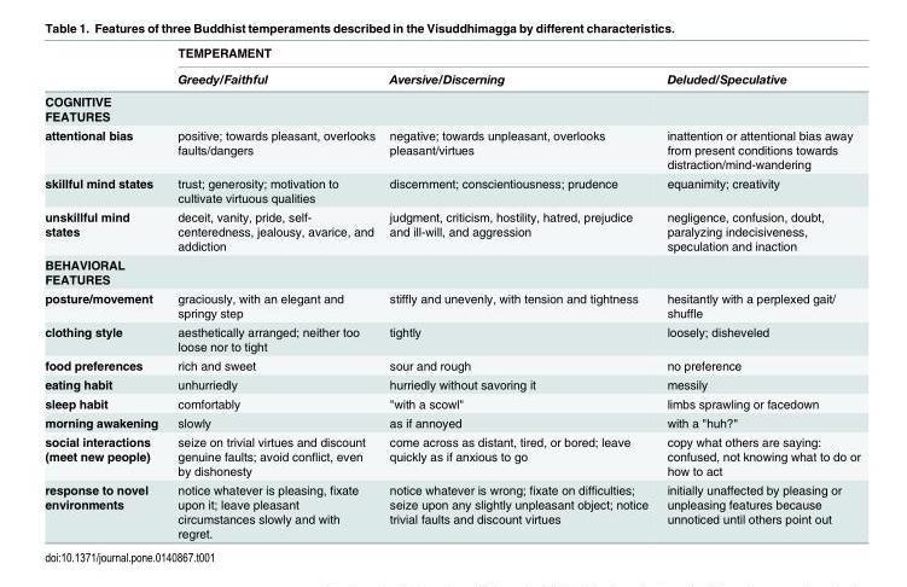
<table><thead><tr><td rowspan="2"></td><td colspan="3">TEMPERAMENT</td></tr><tr><td>Greedy/Faithful</td><td>Aversive/Discerning</td><td>Deluded/Speculative</td></tr></thead><tbody><tr><td colspan="4">COGNITIVE FEATURES</td></tr><tr><td>attentional bias</td><td>positive; towards pleasant, overlooks faults/dangers</td><td>negative; towards unpleasant, overlooks pleasant/virtues</td><td>inattention or attentional bias away from present conditions towards distraction/mind-wandering</td></tr><tr><td>skillful mind states</td><td>trust; generosity; motivation to cultivate virtuous qualities</td><td>discernment; conscientiousness; prudence</td><td>equanimity; creativity</td></tr><tr><td>unskillful mind states</td><td>deceit, vanity, pride, self- centeredness, jealousy, avarice, and addiction</td><td>judgment, criticism, hostility, hatred, prejudice and ill-will, and aggression</td><td>negligence, confusion, doubt, paralyzing indecisiveness, speculation and inaction</td></tr><tr><td colspan="4">BEHAVIORAL FEATURES</td></tr><tr><td>posture/movement</td><td>graciously, with an elegant and springy step</td><td>stiffly and unevenly, with tension and tightness</td><td>hesitantly with a perplexed gait/ shuffle</td></tr><tr><td>clothing style</td><td>aesthetically arranged; neither too loose nor to tight</td><td>tightly</td><td>loosely; disheveled</td></tr><tr><td>food preferences</td><td>rich and sweet</td><td>sour and rough</td><td>no preference</td></tr><tr><td>eating habit</td><td>unhurriedly</td><td>hurriedly without savoring it</td><td>messily</td></tr><tr><td>sleep habit</td><td>comfortably</td><td>&quot;with a scowl&quot;</td><td>limbs sprawling or facedown</td></tr><tr><td>morning awakening</td><td>slowly</td><td>as if annoyed</td><td>with a &quot;huh?&quot;</td></tr><tr><td>social interactions (meet new people)</td><td>seize on trivial virtues and discount genuine faults; avoid conflict, even by dishonesty</td><td>come across as distant, tired, or bored; leave quickly as if anxious to go</td><td>copy what others are saying: confused, not knowing what to do or how to act</td></tr><tr><td>response to novel environments</td><td>notice whatever is pleasing, fixate upon it; leave pleasant circumstances slowly and with regret.</td><td>notice whatever is wrong; fixate on difficulties; seize upon any slightly unpleasant object; notice trivial faults and discount virtues</td><td>initially unaffected by pleasing or unpleasing features because unnoticed until others point out</td></tr></tbody></table>